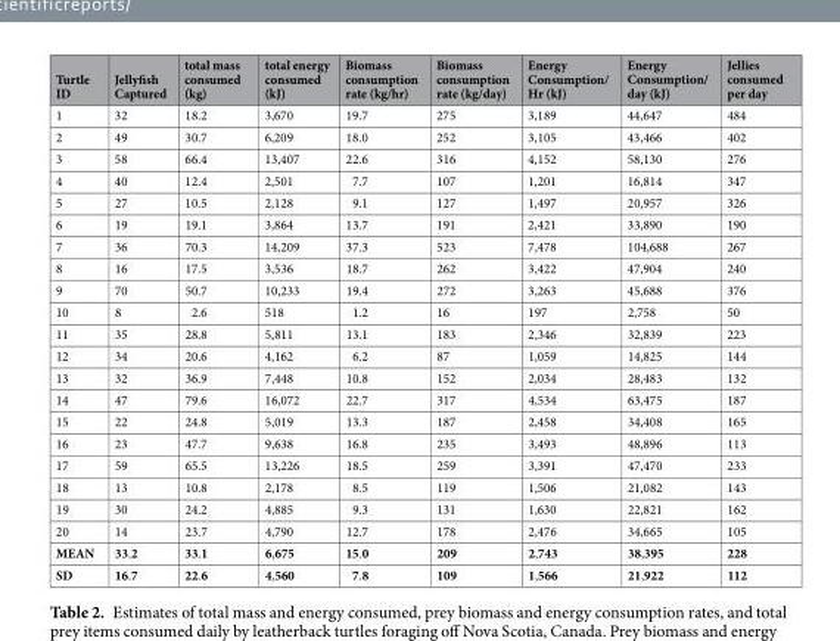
<table><thead><tr><td>Turtle ID</td><td>Jellyfish Captured</td><td>total mass consumed (kg)</td><td>total energy consumed (kJ)</td><td>Biomass consumption rate (kg/hr)</td><td>Biomass consumption rate (kg/day)</td><td>Energy Consumption/ Hr (kJ)</td><td>Energy Consumption/ day (kJ)</td><td>Jellies consumed per day</td></tr></thead><tbody><tr><td>1</td><td>32</td><td>18.2</td><td>3,670</td><td>19.7</td><td>275</td><td>3,189</td><td>44,647</td><td>484</td></tr><tr><td>2</td><td>49</td><td>30.7</td><td>6,209</td><td>18.0</td><td>252</td><td>3,105</td><td>43,466</td><td>402</td></tr><tr><td>3</td><td>58</td><td>66.4</td><td>13,407</td><td>22.6</td><td>316</td><td>4,152</td><td>58,130</td><td>276</td></tr><tr><td>4</td><td>40</td><td>12.4</td><td>2,501</td><td>7.7</td><td>107</td><td>1,201</td><td>16,814</td><td>347</td></tr><tr><td>5</td><td>27</td><td>10.5</td><td>2,128</td><td>9.1</td><td>127</td><td>1,497</td><td>20,957</td><td>326</td></tr><tr><td>6</td><td>19</td><td>19.1</td><td>3,864</td><td>13.7</td><td>191</td><td>2,421</td><td>33,890</td><td>190</td></tr><tr><td>7</td><td>36</td><td>70.3</td><td>14,209</td><td>37.3</td><td>523</td><td>7,478</td><td>104,688</td><td>267</td></tr><tr><td>8</td><td>16</td><td>17.5</td><td>3,536</td><td>18.7</td><td>262</td><td>3,422</td><td>47,904</td><td>240</td></tr><tr><td>9</td><td>70</td><td>50.7</td><td>10,233</td><td>19.4</td><td>272</td><td>3,263</td><td>45,688</td><td>376</td></tr><tr><td>10</td><td>8</td><td>2.6</td><td>518</td><td>1.2</td><td>16</td><td>197</td><td>2,758</td><td>50</td></tr><tr><td>11</td><td>35</td><td>28.8</td><td>5,811</td><td>13.1</td><td>183</td><td>2,346</td><td>32,839</td><td>223</td></tr><tr><td>12</td><td>34</td><td>20.6</td><td>4,162</td><td>6.2</td><td>87</td><td>1,059</td><td>14,825</td><td>144</td></tr><tr><td>13</td><td>32</td><td>36.9</td><td>7,448</td><td>10.8</td><td>152</td><td>2,034</td><td>28,483</td><td>132</td></tr><tr><td>14</td><td>47</td><td>79.6</td><td>16,072</td><td>22.7</td><td>317</td><td>4,534</td><td>63,475</td><td>187</td></tr><tr><td>15</td><td>22</td><td>24.8</td><td>5,019</td><td>13.3</td><td>187</td><td>2,458</td><td>34,408</td><td>165</td></tr><tr><td>16</td><td>23</td><td>47.7</td><td>9,638</td><td>16.8</td><td>235</td><td>3,493</td><td>48,896</td><td>113</td></tr><tr><td>17</td><td>59</td><td>65.5</td><td>13,226</td><td>18.5</td><td>259</td><td>3,391</td><td>47,470</td><td>233</td></tr><tr><td>18</td><td>13</td><td>10.8</td><td>2,178</td><td>8.5</td><td>119</td><td>1,506</td><td>21,082</td><td>143</td></tr><tr><td>19</td><td>30</td><td>24.2</td><td>4,885</td><td>9.3</td><td>131</td><td>1,630</td><td>22,821</td><td>162</td></tr><tr><td>20</td><td>14</td><td>23.7</td><td>4,790</td><td>12.7</td><td>178</td><td>2,476</td><td>34,665</td><td>105</td></tr><tr><td>MEAN</td><td>33.2</td><td>33.1</td><td>6,675</td><td>15.0</td><td>209</td><td>2,743</td><td>38,395</td><td>228</td></tr><tr><td>SD</td><td>16.7</td><td>22.6</td><td>4,560</td><td>7.8</td><td>109</td><td>1,566</td><td>21,922</td><td>112</td></tr></tbody></table>